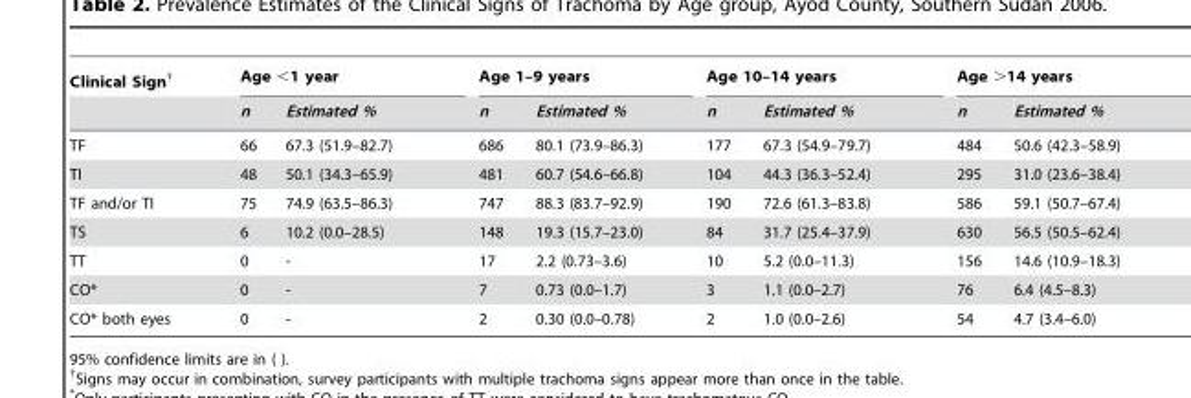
<table><thead><tr><td rowspan="2">Clinical Sign†</td><td colspan="2">Age &lt;1 year</td><td colspan="2">Age 1–9 years</td><td colspan="2">Age 10–14 years</td><td colspan="2">Age &gt;14 years</td></tr><tr><td>n</td><td>Estimated %</td><td>n</td><td>Estimated %</td><td>n</td><td>Estimated %</td><td>n</td><td>Estimated %</td></tr></thead><tbody><tr><td>TF</td><td>66</td><td>67.3 (51.9–82.7)</td><td>686</td><td>80.1 (73.9–86.3)</td><td>177</td><td>67.3 (54.9–79.7)</td><td>484</td><td>50.6 (42.3–58.9)</td></tr><tr><td>TI</td><td>48</td><td>50.1 (34.3–65.9)</td><td>481</td><td>60.7 (54.6–66.8)</td><td>104</td><td>44.3 (36.3–52.4)</td><td>295</td><td>31.0 (23.6–38.4)</td></tr><tr><td>TF and/or TI</td><td>75</td><td>74.9 (63.5–86.3)</td><td>747</td><td>88.3 (83.7–92.9)</td><td>190</td><td>72.6 (61.3–83.8)</td><td>586</td><td>59.1 (50.7–67.4)</td></tr><tr><td>TS</td><td>6</td><td>10.2 (0.0–28.5)</td><td>148</td><td>19.3 (15.7–23.0)</td><td>84</td><td>31.7 (25.4–37.9)</td><td>630</td><td>56.5 (50.5–62.4)</td></tr><tr><td>TT</td><td>0</td><td>-</td><td>17</td><td>2.2 (0.73–3.6)</td><td>10</td><td>5.2 (0.0–11.3)</td><td>156</td><td>14.6 (10.9–18.3)</td></tr><tr><td>CO*</td><td>0</td><td>-</td><td>7</td><td>0.73 (0.0–1.7)</td><td>3</td><td>1.1 (0.0–2.7)</td><td>76</td><td>6.4 (4.5–8.3)</td></tr><tr><td>CO* both eyes</td><td>0</td><td>-</td><td>2</td><td>0.30 (0.0–0.78)</td><td>2</td><td>1.0 (0.0–2.6)</td><td>54</td><td>4.7 (3.4–6.0)</td></tr></tbody></table>